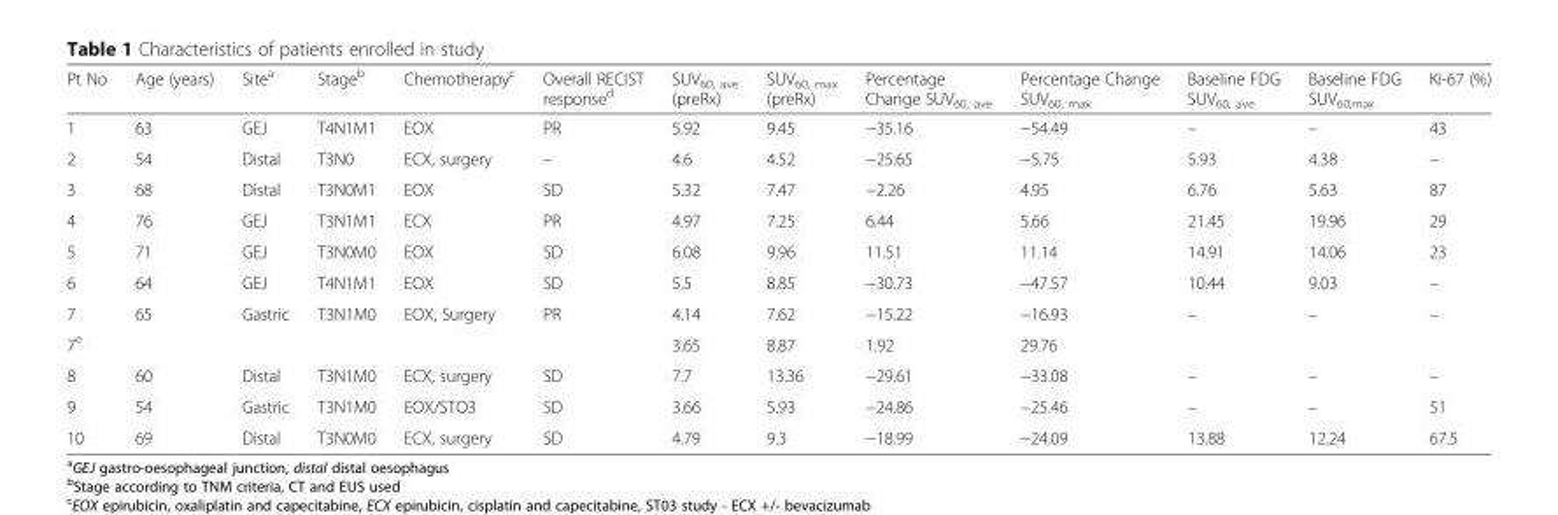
<table><thead><tr><td>Pt No</td><td>Age (years)</td><td>Site<sup>a</sup></td><td>Stage<sup>b</sup></td><td>Chemotherapy<sup>c</sup></td><td>Overall RECIST response<sup>d</sup></td><td>SUV<sub>60, ave</sub> (preRx)</td><td>SUV<sub>60, max</sub> (preRx)</td><td>Percentage Change SUV<sub>60, ave</sub></td><td>Percentage Change SUV<sub>60, max</sub></td><td>Baseline FDG SUV<sub>60, ave</sub></td><td>Baseline FDG SUV<sub>60,max</sub></td><td>Ki-67 (%)</td></tr></thead><tbody><tr><td>1</td><td>63</td><td>GEJ</td><td>T4N1M1</td><td>EOX</td><td>PR</td><td>5.92</td><td>9.45</td><td>−35.16</td><td>−54.49</td><td>–</td><td>–</td><td>43</td></tr><tr><td>2</td><td>54</td><td>Distal</td><td>T3N0</td><td>ECX, surgery</td><td>–</td><td>4.6</td><td>4.52</td><td>−25.65</td><td>−5.75</td><td>5.93</td><td>4.38</td><td>–</td></tr><tr><td>3</td><td>68</td><td>Distal</td><td>T3N0M1</td><td>EOX</td><td>SD</td><td>5.32</td><td>7.47</td><td>−2.26</td><td>4.95</td><td>6.76</td><td>5.63</td><td>87</td></tr><tr><td>4</td><td>76</td><td>GEJ</td><td>T3N1M1</td><td>ECX</td><td>PR</td><td>4.97</td><td>7.25</td><td>6.44</td><td>5.66</td><td>21.45</td><td>19.96</td><td>29</td></tr><tr><td>5</td><td>71</td><td>GEJ</td><td>T3N0M0</td><td>EOX</td><td>SD</td><td>6.08</td><td>9.96</td><td>11.51</td><td>11.14</td><td>14.91</td><td>14.06</td><td>23</td></tr><tr><td>6</td><td>64</td><td>GEJ</td><td>T4N1M1</td><td>EOX</td><td>SD</td><td>5.5</td><td>8.85</td><td>−30.73</td><td>−47.57</td><td>10.44</td><td>9.03</td><td>–</td></tr><tr><td>7</td><td>65</td><td>Gastric</td><td>T3N1M0</td><td>EOX, Surgery</td><td>PR</td><td>4.14</td><td>7.62</td><td>−15.22</td><td>−16.93</td><td>–</td><td>–</td><td>–</td></tr><tr><td>7<sup>e</sup></td><td></td><td></td><td></td><td></td><td></td><td>3.65</td><td>8.87</td><td>1.92</td><td>29.76</td><td></td><td></td><td></td></tr><tr><td>8</td><td>60</td><td>Distal</td><td>T3N1M0</td><td>ECX, surgery</td><td>SD</td><td>7.7</td><td>13.36</td><td>−29.61</td><td>−33.08</td><td>–</td><td>–</td><td>–</td></tr><tr><td>9</td><td>54</td><td>Gastric</td><td>T3N1M0</td><td>EOX/STO3</td><td>SD</td><td>3.66</td><td>5.93</td><td>−24.86</td><td>−25.46</td><td>–</td><td>–</td><td>51</td></tr><tr><td>10</td><td>69</td><td>Distal</td><td>T3N0M0</td><td>ECX, surgery</td><td>SD</td><td>4.79</td><td>9.3</td><td>−18.99</td><td>−24.09</td><td>13.88</td><td>12.24</td><td>67.5</td></tr></tbody></table>